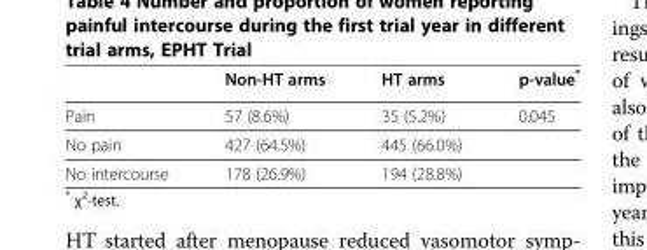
<table><thead><tr><td></td><td>Non-HT arms</td><td>HT arms</td><td>p-value*</td></tr></thead><tbody><tr><td>Pain</td><td>57 (8.6%)</td><td>35 (5.2%)</td><td>0.045</td></tr><tr><td>No pain</td><td>427 (64.5%)</td><td>445 (66.0%)</td><td></td></tr><tr><td>No intercourse</td><td>178 (26.9%)</td><td>194 (28.8%)</td><td></td></tr></tbody></table>